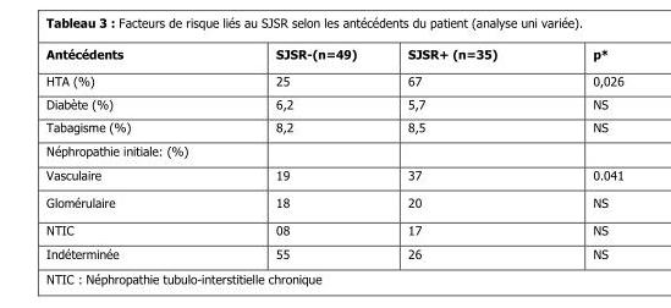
<table><thead><tr><td>Antécédents</td><td>SJSR-(n=49)</td><td>SJSR+ (n=35)</td><td>p*</td></tr></thead><tbody><tr><td>HTA (%)</td><td>25</td><td>67</td><td>0,026</td></tr><tr><td>Diabète (%)</td><td>6,2</td><td>5,7</td><td>NS</td></tr><tr><td>Tabagisme (%)</td><td>8,2</td><td>8,5</td><td>NS</td></tr><tr><td colspan="4">Néphropathie initiale: (%)</td></tr><tr><td>Vasculaire</td><td>19</td><td>37</td><td>0.041</td></tr><tr><td>Glomérulaire</td><td>18</td><td>20</td><td>NS</td></tr><tr><td>NTIC</td><td>08</td><td>17</td><td>NS</td></tr><tr><td>Indéterminée</td><td>55</td><td>26</td><td>NS</td></tr></tbody></table>